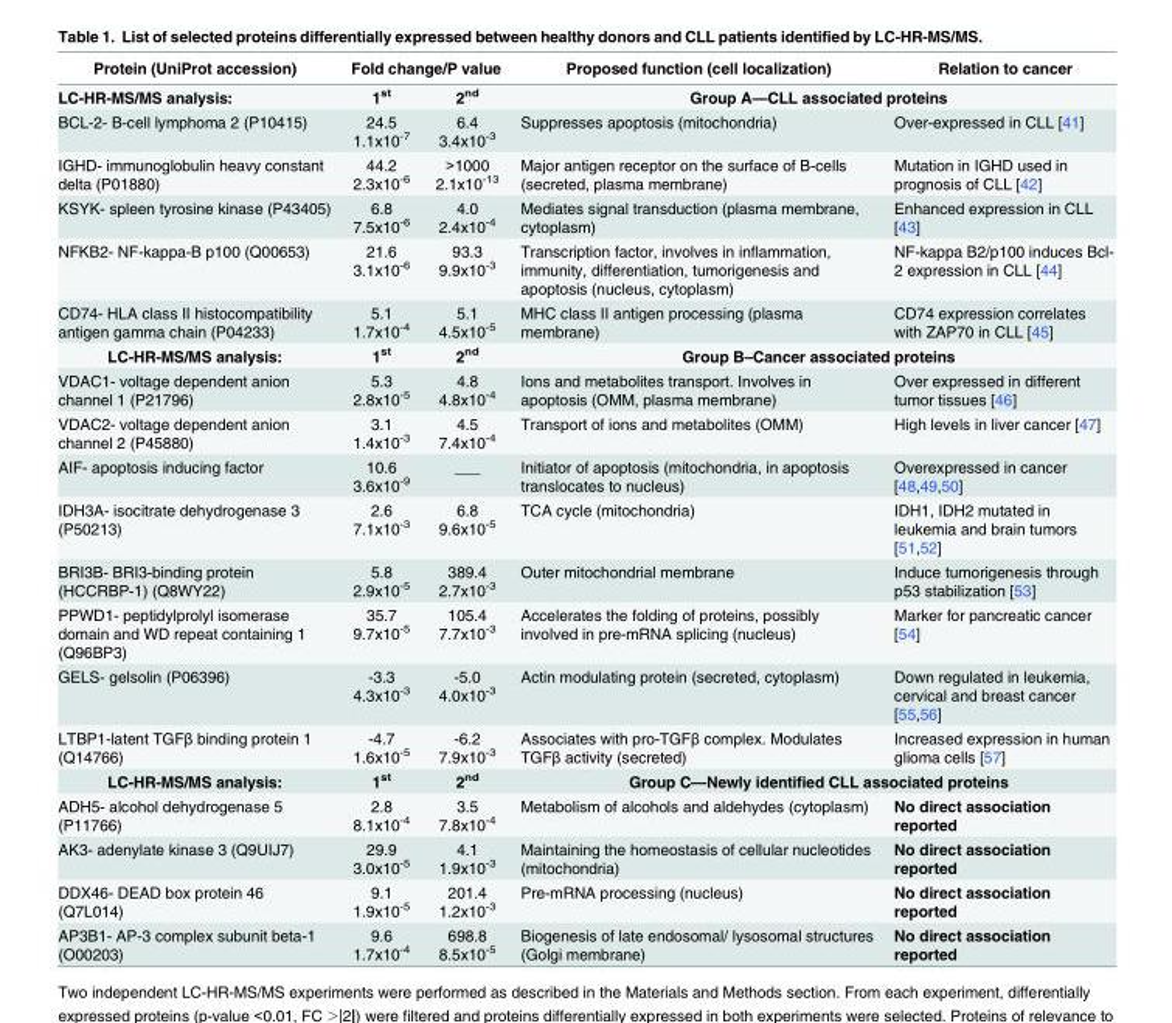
<table><thead><tr><td rowspan="2">Protein (UniProt accession) LC-HR-MS/MS analysis:</td><td colspan="2">Fold change/P value</td><td>Proposed function (cell localization)</td><td>Relation to cancer</td></tr><tr><td>1<sup>st</sup></td><td>2<sup>nd</sup></td><td colspan="2">Group A—CLL associated proteins</td></tr></thead><tbody><tr><td>BCL-2- B-cell lymphoma 2 (P10415)</td><td>24.5 1.1x10<sup>-7</sup></td><td>6.4 3.4x10<sup>-3</sup></td><td>Suppresses apoptosis (mitochondria)</td><td>Over-expressed in CLL [41]</td></tr><tr><td>IGHD- immunoglobulin heavy constant delta (P01880)</td><td>44.2 2.3x10<sup>-6</sup></td><td>&gt;1000 2.1x10<sup>-13</sup></td><td>Major antigen receptor on the surface of B-cells (secreted, plasma membrane)</td><td>Mutation in IGHD used in prognosis of CLL [42]</td></tr><tr><td>KSYK- spleen tyrosine kinase (P43405)</td><td>6.8 7.5x10<sup>-6</sup></td><td>4.0 2.4x10<sup>-4</sup></td><td>Mediates signal transduction (plasma membrane, cytoplasm)</td><td>Enhanced expression in CLL [43]</td></tr><tr><td>NFKB2- NF-kappa-B p100 (Q00653)</td><td>21.6 3.1x10<sup>-6</sup></td><td>93.3 9.9x10<sup>-3</sup></td><td>Transcription factor, involves in inflammation, immunity, differentiation, tumorigenesis and apoptosis (nucleus, cytoplasm)</td><td>NF-kappa B2/p100 induces Bcl- 2 expression in CLL [44]</td></tr><tr><td>CD74- HLA class II histocompatibility antigen gamma chain (P04233)</td><td>5.1 1.7x10<sup>-4</sup></td><td>5.1 4.5x10<sup>-5</sup></td><td>MHC class II antigen processing (plasma membrane)</td><td>CD74 expression correlates with ZAP70 in CLL [45]</td></tr><tr><td>LC-HR-MS/MS analysis:</td><td>1<sup>st</sup></td><td>2<sup>nd</sup></td><td colspan="2">Group B–Cancer associated proteins</td></tr><tr><td>VDAC1- voltage dependent anion channel 1 (P21796)</td><td>5.3 2.8x10<sup>-5</sup></td><td>4.8 4.8x10<sup>-4</sup></td><td>Ions and metabolites transport. Involves in apoptosis (OMM, plasma membrane)</td><td>Over expressed in different tumor tissues [46]</td></tr><tr><td>VDAC2- voltage dependent anion channel 2 (P45880)</td><td>3.1 1.4x10<sup>-3</sup></td><td>4.5 7.4x10<sup>-4</sup></td><td>Transport of ions and metabolites (OMM)</td><td>High levels in liver cancer [47]</td></tr><tr><td>AIF- apoptosis inducing factor</td><td>10.6 3.6x10<sup>-9</sup></td><td>___</td><td>Initiator of apoptosis (mitochondria, in apoptosis translocates to nucleus)</td><td>Overexpressed in cancer [48,49,50]</td></tr><tr><td>IDH3A- isocitrate dehydrogenase 3 (P50213)</td><td>2.6 7.1x10<sup>-3</sup></td><td>6.8 9.6x10<sup>-5</sup></td><td>TCA cycle (mitochondria)</td><td>IDH1, IDH2 mutated in leukemia and brain tumors [51,52]</td></tr><tr><td>BRI3B- BRI3-binding protein (HCCRBP-1) (Q8WY22)</td><td>5.8 2.9x10<sup>-5</sup></td><td>389.4 2.7x10<sup>-3</sup></td><td>Outer mitochondrial membrane</td><td>Induce tumorigenesis through p53 stabilization [53]</td></tr><tr><td>PPWD1- peptidylprolyl isomerase domain and WD repeat containing 1 (Q96BP3)</td><td>35.7 9.7x10<sup>-5</sup></td><td>105.4 7.7x10<sup>-3</sup></td><td>Accelerates the folding of proteins, possibly involved in pre-mRNA splicing (nucleus)</td><td>Marker for pancreatic cancer [54]</td></tr><tr><td>GELS- gelsolin (P06396)</td><td>-3.3 4.3x10<sup>-3</sup></td><td>-5.0 4.0x10<sup>-3</sup></td><td>Actin modulating protein (secreted, cytoplasm)</td><td>Down regulated in leukemia, cervical and breast cancer [55,56]</td></tr><tr><td>LTBP1-latent TGFβ binding protein 1 (Q14766)</td><td>-4.7 1.6x10<sup>-5</sup></td><td>-6.2 7.9x10<sup>-3</sup></td><td>Associates with pro-TGFβ complex. Modulates TGFβ activity (secreted)</td><td>Increased expression in human glioma cells [57]</td></tr><tr><td>LC-HR-MS/MS analysis:</td><td>1<sup>st</sup></td><td>2<sup>nd</sup></td><td colspan="2">Group C—Newly identified CLL associated proteins</td></tr><tr><td>ADH5- alcohol dehydrogenase 5 (P11766)</td><td>2.8 8.1x10<sup>-4</sup></td><td>3.5 7.8x10<sup>-4</sup></td><td>Metabolism of alcohols and aldehydes (cytoplasm)</td><td>No direct association reported</td></tr><tr><td>AK3- adenylate kinase 3 (Q9UIJ7)</td><td>29.9 3.0x10<sup>-5</sup></td><td>4.1 1.9x10<sup>-3</sup></td><td>Maintaining the homeostasis of cellular nucleotides (mitochondria)</td><td>No direct association reported</td></tr><tr><td>DDX46- DEAD box protein 46 (Q7L014)</td><td>9.1 1.9x10<sup>-5</sup></td><td>201.4 1.2x10<sup>-3</sup></td><td>Pre-mRNA processing (nucleus)</td><td>No direct association reported</td></tr><tr><td>AP3B1- AP-3 complex subunit beta-1 (O00203)</td><td>9.6 1.7x10<sup>-4</sup></td><td>698.8 8.5x10<sup>-5</sup></td><td>Biogenesis of late endosomal/ lysosomal structures (Golgi membrane)</td><td>No direct association reported</td></tr></tbody></table>